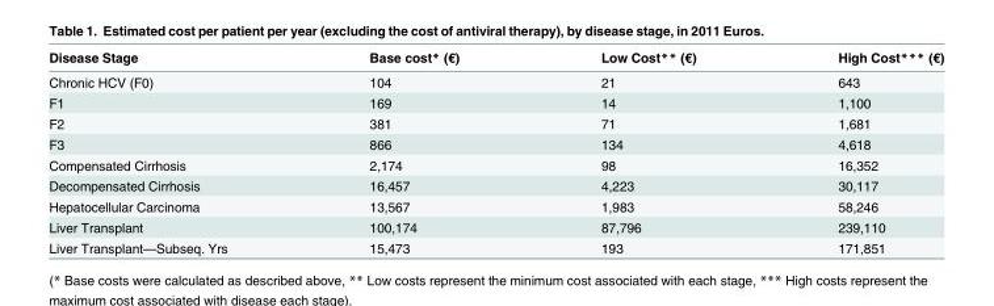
<table><thead><tr><td>Disease Stage</td><td>Base cost* (€)</td><td>Low Cost** (€)</td><td>High Cost*** (€)</td></tr></thead><tbody><tr><td>Chronic HCV (F0)</td><td>104</td><td>21</td><td>643</td></tr><tr><td>F1</td><td>169</td><td>14</td><td>1,100</td></tr><tr><td>F2</td><td>381</td><td>71</td><td>1,681</td></tr><tr><td>F3</td><td>866</td><td>134</td><td>4,618</td></tr><tr><td>Compensated Cirrhosis</td><td>2,174</td><td>98</td><td>16,352</td></tr><tr><td>Decompensated Cirrhosis</td><td>16,457</td><td>4,223</td><td>30,117</td></tr><tr><td>Hepatocellular Carcinoma</td><td>13,567</td><td>1,983</td><td>58,246</td></tr><tr><td>Liver Transplant</td><td>100,174</td><td>87,796</td><td>239,110</td></tr><tr><td>Liver Transplant—Subseq. Yrs</td><td>15,473</td><td>193</td><td>171,851</td></tr></tbody></table>